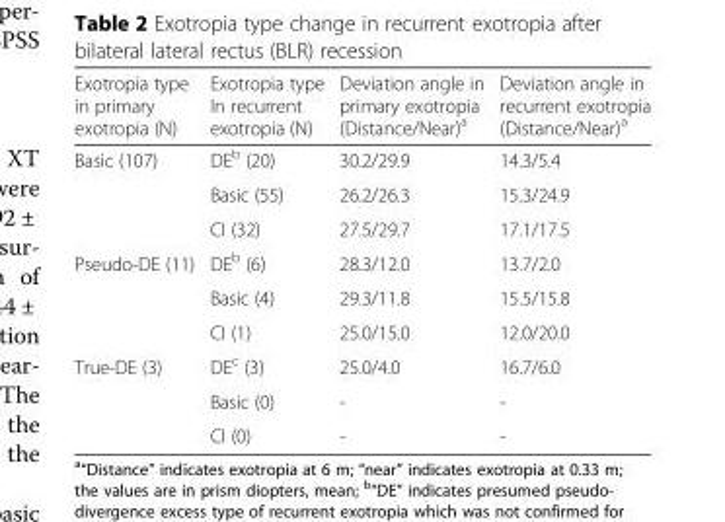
<table><thead><tr><td>Exotropia type in primary exotropia (N)</td><td>Exotropia type In recurrent exotropia (N)</td><td>Deviation angle in primary exotropia (Distance/Near)<sup>a</sup></td><td>Deviation angle in recurrent exotropia (Distance/Near)<sup>a</sup></td></tr></thead><tbody><tr><td rowspan="3">Basic (107)</td><td>DE<sup>b</sup> (20)</td><td>30.2/29.9</td><td>14.3/5.4</td></tr><tr><td>Basic (55)</td><td>26.2/26.3</td><td>15.3/24.9</td></tr><tr><td>CI (32)</td><td>27.5/29.7</td><td>17.1/17.5</td></tr><tr><td rowspan="3">Pseudo-DE (11)</td><td>DE<sup>b</sup> (6)</td><td>28.3/12.0</td><td>13.7/2.0</td></tr><tr><td>Basic (4)</td><td>29.3/11.8</td><td>15.5/15.8</td></tr><tr><td>CI (1)</td><td>25.0/15.0</td><td>12.0/20.0</td></tr><tr><td rowspan="3">True-DE (3)</td><td>DE<sup>c</sup> (3)</td><td>25.0/4.0</td><td>16.7/6.0</td></tr><tr><td>Basic (0)</td><td>-</td><td>-</td></tr><tr><td>CI (0)</td><td>-</td><td>-</td></tr></tbody></table>